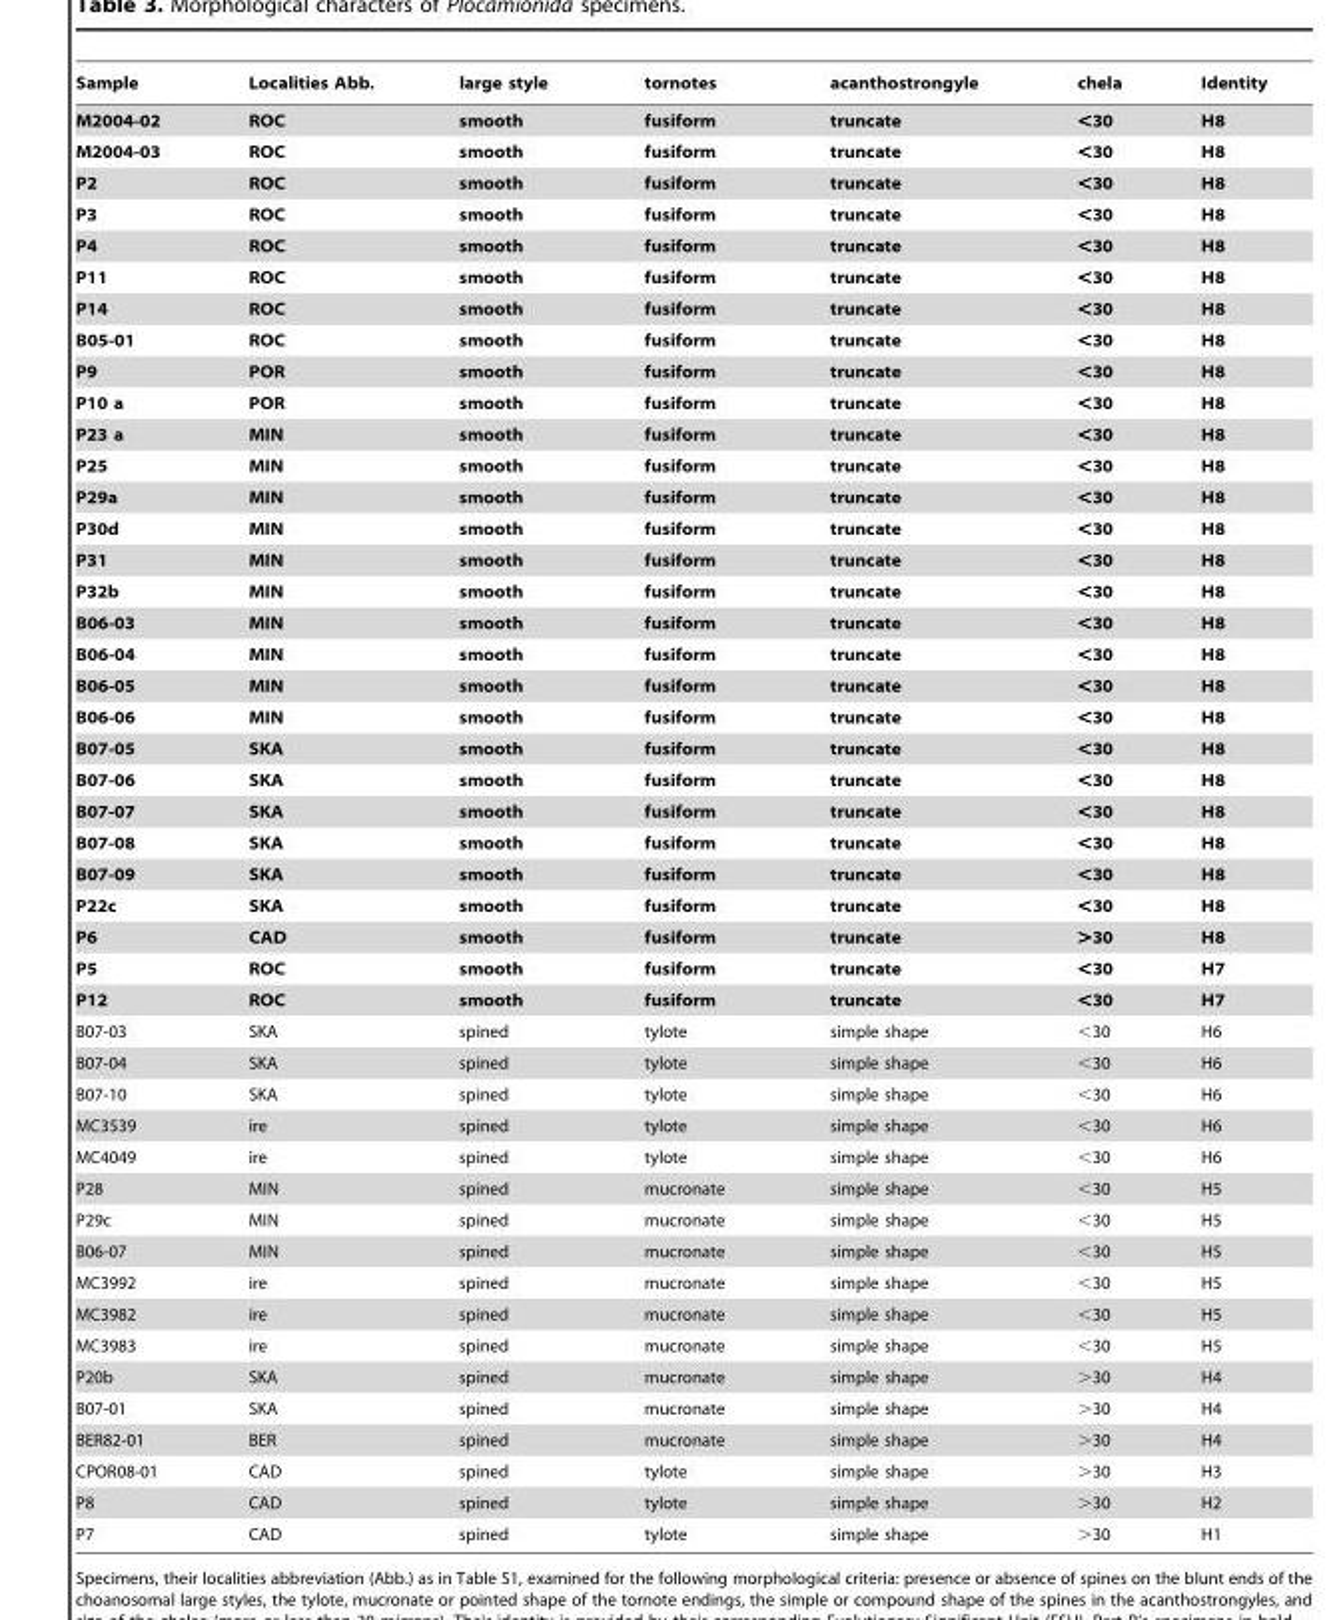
<table><thead><tr><td>Sample</td><td>Localities Abb.</td><td>large style</td><td>tornotes</td><td>acanthostrongyle</td><td>chela</td><td>Identity</td></tr></thead><tbody><tr><td>M2004-02</td><td>ROC</td><td>smooth</td><td>fusiform</td><td>truncate</td><td>&lt;30</td><td>H8</td></tr><tr><td>M2004-03</td><td>ROC</td><td>smooth</td><td>fusiform</td><td>truncate</td><td>&lt;30</td><td>H8</td></tr><tr><td>P2</td><td>ROC</td><td>smooth</td><td>fusiform</td><td>truncate</td><td>&lt;30</td><td>H8</td></tr><tr><td>P3</td><td>ROC</td><td>smooth</td><td>fusiform</td><td>truncate</td><td>&lt;30</td><td>H8</td></tr><tr><td>P4</td><td>ROC</td><td>smooth</td><td>fusiform</td><td>truncate</td><td>&lt;30</td><td>H8</td></tr><tr><td>P11</td><td>ROC</td><td>smooth</td><td>fusiform</td><td>truncate</td><td>&lt;30</td><td>H8</td></tr><tr><td>P14</td><td>ROC</td><td>smooth</td><td>fusiform</td><td>truncate</td><td>&lt;30</td><td>H8</td></tr><tr><td>B05-01</td><td>ROC</td><td>smooth</td><td>fusiform</td><td>truncate</td><td>&lt;30</td><td>H8</td></tr><tr><td>P9</td><td>POR</td><td>smooth</td><td>fusiform</td><td>truncate</td><td>&lt;30</td><td>H8</td></tr><tr><td>P10 a</td><td>POR</td><td>smooth</td><td>fusiform</td><td>truncate</td><td>&lt;30</td><td>H8</td></tr><tr><td>P23 a</td><td>MIN</td><td>smooth</td><td>fusiform</td><td>truncate</td><td>&lt;30</td><td>H8</td></tr><tr><td>P25</td><td>MIN</td><td>smooth</td><td>fusiform</td><td>truncate</td><td>&lt;30</td><td>H8</td></tr><tr><td>P29a</td><td>MIN</td><td>smooth</td><td>fusiform</td><td>truncate</td><td>&lt;30</td><td>H8</td></tr><tr><td>P30d</td><td>MIN</td><td>smooth</td><td>fusiform</td><td>truncate</td><td>&lt;30</td><td>H8</td></tr><tr><td>P31</td><td>MIN</td><td>smooth</td><td>fusiform</td><td>truncate</td><td>&lt;30</td><td>H8</td></tr><tr><td>P32b</td><td>MIN</td><td>smooth</td><td>fusiform</td><td>truncate</td><td>&lt;30</td><td>H8</td></tr><tr><td>B06-03</td><td>MIN</td><td>smooth</td><td>fusiform</td><td>truncate</td><td>&lt;30</td><td>H8</td></tr><tr><td>B06-04</td><td>MIN</td><td>smooth</td><td>fusiform</td><td>truncate</td><td>&lt;30</td><td>H8</td></tr><tr><td>B06-05</td><td>MIN</td><td>smooth</td><td>fusiform</td><td>truncate</td><td>&lt;30</td><td>H8</td></tr><tr><td>B06-06</td><td>MIN</td><td>smooth</td><td>fusiform</td><td>truncate</td><td>&lt;30</td><td>H8</td></tr><tr><td>B07-05</td><td>SKA</td><td>smooth</td><td>fusiform</td><td>truncate</td><td>&lt;30</td><td>H8</td></tr><tr><td>B07-06</td><td>SKA</td><td>smooth</td><td>fusiform</td><td>truncate</td><td>&lt;30</td><td>H8</td></tr><tr><td>B07-07</td><td>SKA</td><td>smooth</td><td>fusiform</td><td>truncate</td><td>&lt;30</td><td>H8</td></tr><tr><td>B07-08</td><td>SKA</td><td>smooth</td><td>fusiform</td><td>truncate</td><td>&lt;30</td><td>H8</td></tr><tr><td>B07-09</td><td>SKA</td><td>smooth</td><td>fusiform</td><td>truncate</td><td>&lt;30</td><td>H8</td></tr><tr><td>P22c</td><td>SKA</td><td>smooth</td><td>fusiform</td><td>truncate</td><td>&lt;30</td><td>H8</td></tr><tr><td>P6</td><td>CAD</td><td>smooth</td><td>fusiform</td><td>truncate</td><td>&gt;30</td><td>H8</td></tr><tr><td>P5</td><td>ROC</td><td>smooth</td><td>fusiform</td><td>truncate</td><td>&lt;30</td><td>H7</td></tr><tr><td>P12</td><td>ROC</td><td>smooth</td><td>fusiform</td><td>truncate</td><td>&lt;30</td><td>H7</td></tr><tr><td>B07-03</td><td>SKA</td><td>spined</td><td>tylote</td><td>simple shape</td><td>&lt;30</td><td>H6</td></tr><tr><td>B07-04</td><td>SKA</td><td>spined</td><td>tylote</td><td>simple shape</td><td>&lt;30</td><td>H6</td></tr><tr><td>B07-10</td><td>SKA</td><td>spined</td><td>tylote</td><td>simple shape</td><td>&lt;30</td><td>H6</td></tr><tr><td>MC3539</td><td>ire</td><td>spined</td><td>tylote</td><td>simple shape</td><td>&lt;30</td><td>H6</td></tr><tr><td>MC4049</td><td>ire</td><td>spined</td><td>tylote</td><td>simple shape</td><td>&lt;30</td><td>H6</td></tr><tr><td>P28</td><td>MIN</td><td>spined</td><td>mucronate</td><td>simple shape</td><td>&lt;30</td><td>H5</td></tr><tr><td>P29c</td><td>MIN</td><td>spined</td><td>mucronate</td><td>simple shape</td><td>&lt;30</td><td>H5</td></tr><tr><td>B06-07</td><td>MIN</td><td>spined</td><td>mucronate</td><td>simple shape</td><td>&lt;30</td><td>H5</td></tr><tr><td>MC3992</td><td>ire</td><td>spined</td><td>mucronate</td><td>simple shape</td><td>&lt;30</td><td>H5</td></tr><tr><td>MC3982</td><td>ire</td><td>spined</td><td>mucronate</td><td>simple shape</td><td>&lt;30</td><td>H5</td></tr><tr><td>MC3983</td><td>ire</td><td>spined</td><td>mucronate</td><td>simple shape</td><td>&lt;30</td><td>H5</td></tr><tr><td>P20b</td><td>SKA</td><td>spined</td><td>mucronate</td><td>simple shape</td><td>&gt;30</td><td>H4</td></tr><tr><td>B07-01</td><td>SKA</td><td>spined</td><td>mucronate</td><td>simple shape</td><td>&gt;30</td><td>H4</td></tr><tr><td>BER82-01</td><td>BER</td><td>spined</td><td>mucronate</td><td>simple shape</td><td>&gt;30</td><td>H4</td></tr><tr><td>CPOR08-01</td><td>CAD</td><td>spined</td><td>tylote</td><td>simple shape</td><td>&gt;30</td><td>H3</td></tr><tr><td>P8</td><td>CAD</td><td>spined</td><td>tylote</td><td>simple shape</td><td>&gt;30</td><td>H2</td></tr><tr><td>P7</td><td>CAD</td><td>spined</td><td>tylote</td><td>simple shape</td><td>&gt;30</td><td>H1</td></tr></tbody></table>